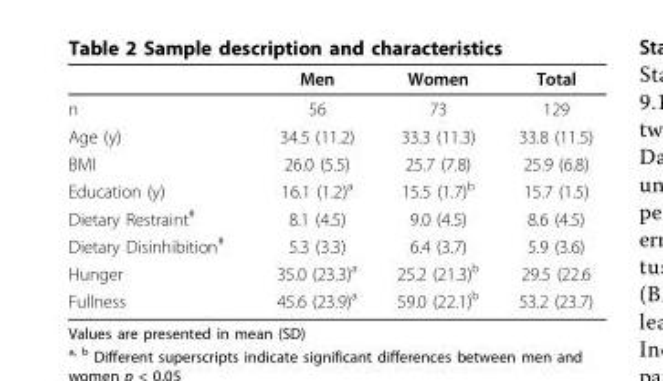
<table><thead><tr><td></td><td>Men</td><td>Women</td><td>Total</td></tr></thead><tbody><tr><td>n</td><td>56</td><td>73</td><td>129</td></tr><tr><td>Age (y)</td><td>34.5 (11.2)</td><td>33.3 (11.3)</td><td>33.8 (11.5)</td></tr><tr><td>BMI</td><td>26.0 (5.5)</td><td>25.7 (7.8)</td><td>25.9 (6.8)</td></tr><tr><td>Education (y)</td><td>16.1 (1.2)<sup>a</sup></td><td>15.5 (1.7)<sup>b</sup></td><td>15.7 (1.5)</td></tr><tr><td>Dietary Restraint<sup>#</sup></td><td>8.1 (4.5)</td><td>9.0 (4.5)</td><td>8.6 (4.5)</td></tr><tr><td>Dietary Disinhibition<sup>#</sup></td><td>5.3 (3.3)</td><td>6.4 (3.7)</td><td>5.9 (3.6)</td></tr><tr><td>Hunger</td><td>35.0 (23.3)<sup>a</sup></td><td>25.2 (21.3)<sup>b</sup></td><td>29.5 (22.6</td></tr><tr><td>Fullness</td><td>45.6 (23.9)<sup>a</sup></td><td>59.0 (22.1)<sup>b</sup></td><td>53.2 (23.7)</td></tr></tbody></table>